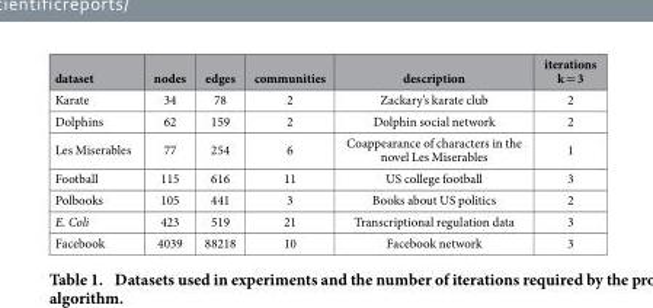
<table><thead><tr><td>dataset</td><td>nodes</td><td>edges</td><td>communities</td><td>description</td><td>iterations k = 3</td></tr></thead><tbody><tr><td>Karate</td><td>34</td><td>78</td><td>2</td><td>Zackary’s karate club</td><td>2</td></tr><tr><td>Dolphins</td><td>62</td><td>159</td><td>2</td><td>Dolphin social network</td><td>2</td></tr><tr><td>Les Miserables</td><td>77</td><td>254</td><td>6</td><td>Coappearance of characters in the novel Les Miserables</td><td>1</td></tr><tr><td>Football</td><td>115</td><td>616</td><td>11</td><td>US college football</td><td>3</td></tr><tr><td>Polbooks</td><td>105</td><td>441</td><td>3</td><td>Books about US politics</td><td>2</td></tr><tr><td>E. Coli</td><td>423</td><td>519</td><td>21</td><td>Transcriptional regulation data</td><td>3</td></tr><tr><td>Facebook</td><td>4039</td><td>88218</td><td>10</td><td>Facebook network</td><td>3</td></tr></tbody></table>